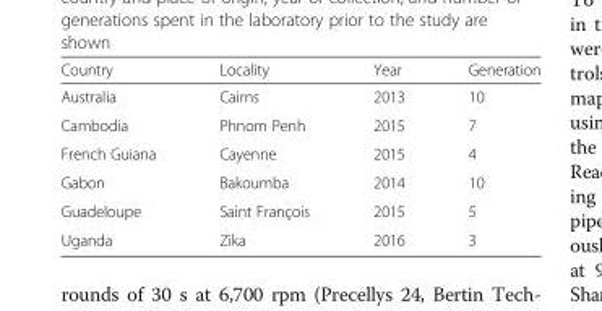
<table><thead><tr><td>Country</td><td>Locality</td><td>Year</td><td>Generation</td></tr></thead><tbody><tr><td>Australia</td><td>Cairns</td><td>2013</td><td>10</td></tr><tr><td>Cambodia</td><td>Phnom Penh</td><td>2015</td><td>7</td></tr><tr><td>French Guiana</td><td>Cayenne</td><td>2015</td><td>4</td></tr><tr><td>Gabon</td><td>Bakoumba</td><td>2014</td><td>10</td></tr><tr><td>Guadeloupe</td><td>Saint François</td><td>2015</td><td>5</td></tr><tr><td>Uganda</td><td>Zika</td><td>2016</td><td>3</td></tr></tbody></table>